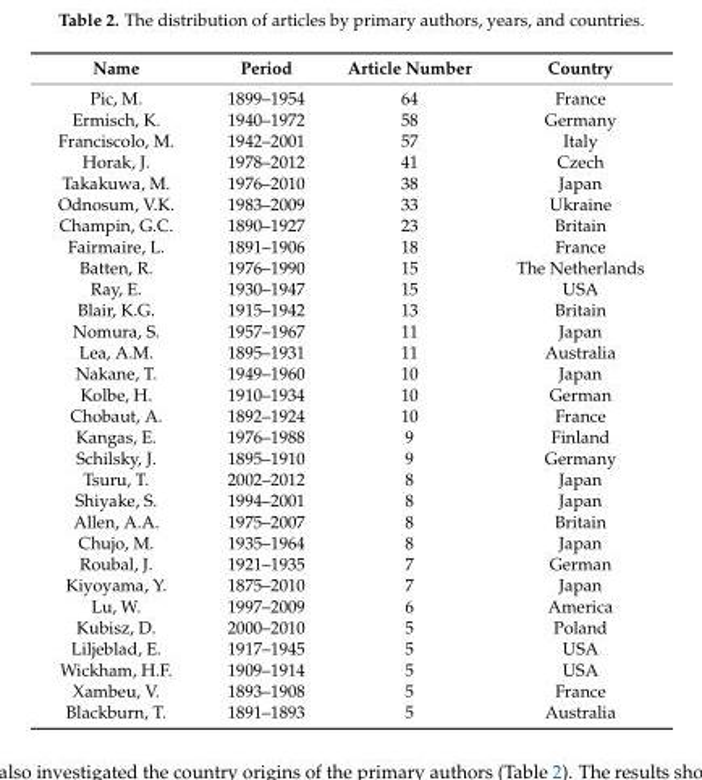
<table><thead><tr><td>Name</td><td>Period</td><td>Article Number</td><td>Country</td></tr></thead><tbody><tr><td>Pic, M.</td><td>1899–1954</td><td>64</td><td>France</td></tr><tr><td>Ermisch, K.</td><td>1940–1972</td><td>58</td><td>Germany</td></tr><tr><td>Franciscolo, M.</td><td>1942–2001</td><td>57</td><td>Italy</td></tr><tr><td>Horak, J.</td><td>1978–2012</td><td>41</td><td>Czech</td></tr><tr><td>Takakuwa, M.</td><td>1976–2010</td><td>38</td><td>Japan</td></tr><tr><td>Odnosum, V.K.</td><td>1983–2009</td><td>33</td><td>Ukraine</td></tr><tr><td>Champin, G.C.</td><td>1890–1927</td><td>23</td><td>Britain</td></tr><tr><td>Fairmaire, L.</td><td>1891–1906</td><td>18</td><td>France</td></tr><tr><td>Batten, R.</td><td>1976–1990</td><td>15</td><td>The Netherlands</td></tr><tr><td>Ray, E.</td><td>1930–1947</td><td>15</td><td>USA</td></tr><tr><td>Blair, K.G.</td><td>1915–1942</td><td>13</td><td>Britain</td></tr><tr><td>Nomura, S.</td><td>1957–1967</td><td>11</td><td>Japan</td></tr><tr><td>Lea, A.M.</td><td>1895–1931</td><td>11</td><td>Australia</td></tr><tr><td>Nakane, T.</td><td>1949–1960</td><td>10</td><td>Japan</td></tr><tr><td>Kolbe, H.</td><td>1910–1934</td><td>10</td><td>German</td></tr><tr><td>Chobaut, A.</td><td>1892–1924</td><td>10</td><td>France</td></tr><tr><td>Kangas, E.</td><td>1976–1988</td><td>9</td><td>Finland</td></tr><tr><td>Schilsky, J.</td><td>1895–1910</td><td>9</td><td>Germany</td></tr><tr><td>Tsuru, T.</td><td>2002–2012</td><td>8</td><td>Japan</td></tr><tr><td>Shiyake, S.</td><td>1994–2001</td><td>8</td><td>Japan</td></tr><tr><td>Allen, A.A.</td><td>1975–2007</td><td>8</td><td>Britain</td></tr><tr><td>Chujo, M.</td><td>1935–1964</td><td>8</td><td>Japan</td></tr><tr><td>Roubal, J.</td><td>1921–1935</td><td>7</td><td>German</td></tr><tr><td>Kiyoyama, Y.</td><td>1875–2010</td><td>7</td><td>Japan</td></tr><tr><td>Lu, W.</td><td>1997–2009</td><td>6</td><td>America</td></tr><tr><td>Kubisz, D.</td><td>2000–2010</td><td>5</td><td>Poland</td></tr><tr><td>Liljeblad, E.</td><td>1917–1945</td><td>5</td><td>USA</td></tr><tr><td>Wickham, H.F.</td><td>1909–1914</td><td>5</td><td>USA</td></tr><tr><td>Xambeu, V.</td><td>1893–1908</td><td>5</td><td>France</td></tr><tr><td>Blackburn, T.</td><td>1891–1893</td><td>5</td><td>Australia</td></tr></tbody></table>